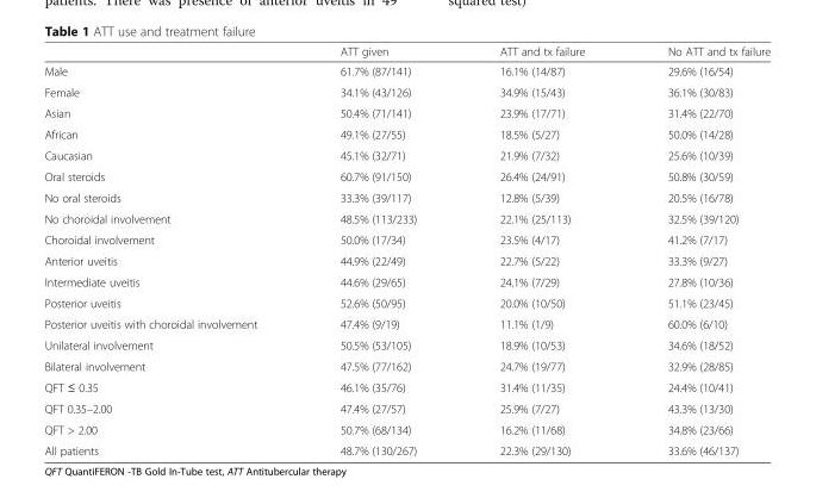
<table><thead><tr><td></td><td>ATT given</td><td>ATT and tx failure</td><td>No ATT and tx failure</td></tr></thead><tbody><tr><td>Male</td><td>61.7% (87/141)</td><td>16.1% (14/87)</td><td>29.6% (16/54)</td></tr><tr><td>Female</td><td>34.1% (43/126)</td><td>34.9% (15/43)</td><td>36.1% (30/83)</td></tr><tr><td>Asian</td><td>50.4% (71/141)</td><td>23.9% (17/71)</td><td>31.4% (22/70)</td></tr><tr><td>African</td><td>49.1% (27/55)</td><td>18.5% (5/27)</td><td>50.0% (14/28)</td></tr><tr><td>Caucasian</td><td>45.1% (32/71)</td><td>21.9% (7/32)</td><td>25.6% (10/39)</td></tr><tr><td>Oral steroids</td><td>60.7% (91/150)</td><td>26.4% (24/91)</td><td>50.8% (30/59)</td></tr><tr><td>No oral steroids</td><td>33.3% (39/117)</td><td>12.8% (5/39)</td><td>20.5% (16/78)</td></tr><tr><td>No choroidal involvement</td><td>48.5% (113/233)</td><td>22.1% (25/113)</td><td>32.5% (39/120)</td></tr><tr><td>Choroidal involvement</td><td>50.0% (17/34)</td><td>23.5% (4/17)</td><td>41.2% (7/17)</td></tr><tr><td>Anterior uveitis</td><td>44.9% (22/49)</td><td>22.7% (5/22)</td><td>33.3% (9/27)</td></tr><tr><td>Intermediate uveitis</td><td>44.6% (29/65)</td><td>24.1% (7/29)</td><td>27.8% (10/36)</td></tr><tr><td>Posterior uveitis</td><td>52.6% (50/95)</td><td>20.0% (10/50)</td><td>51.1% (23/45)</td></tr><tr><td>Posterior uveitis with choroidal involvement</td><td>47.4% (9/19)</td><td>11.1% (1/9)</td><td>60.0% (6/10)</td></tr><tr><td>Unilateral involvement</td><td>50.5% (53/105)</td><td>18.9% (10/53)</td><td>34.6% (18/52)</td></tr><tr><td>Bilateral involvement</td><td>47.5% (77/162)</td><td>24.7% (19/77)</td><td>32.9% (28/85)</td></tr><tr><td>QFT ≤ 0.35</td><td>46.1% (35/76)</td><td>31.4% (11/35)</td><td>24.4% (10/41)</td></tr><tr><td>QFT 0.35–2.00</td><td>47.4% (27/57)</td><td>25.9% (7/27)</td><td>43.3% (13/30)</td></tr><tr><td>QFT &gt; 2.00</td><td>50.7% (68/134)</td><td>16.2% (11/68)</td><td>34.8% (23/66)</td></tr><tr><td>All patients</td><td>48.7% (130/267)</td><td>22.3% (29/130)</td><td>33.6% (46/137)</td></tr></tbody></table>